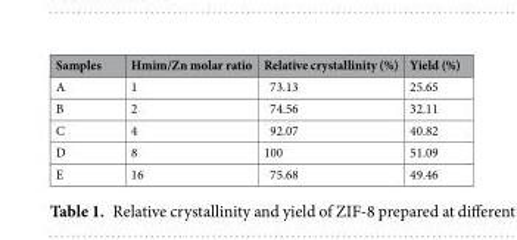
<table><thead><tr><td>Samples</td><td>Hmim/Zn molar ratio</td><td>Relative crystallinity (%)</td><td>Yield (%)</td></tr></thead><tbody><tr><td>A</td><td>1</td><td>73.13</td><td>25.65</td></tr><tr><td>B</td><td>2</td><td>74.56</td><td>32.11</td></tr><tr><td>C</td><td>4</td><td>92.07</td><td>40.82</td></tr><tr><td>D</td><td>8</td><td>100</td><td>51.09</td></tr><tr><td>E</td><td>16</td><td>75.68</td><td>49.46</td></tr></tbody></table>